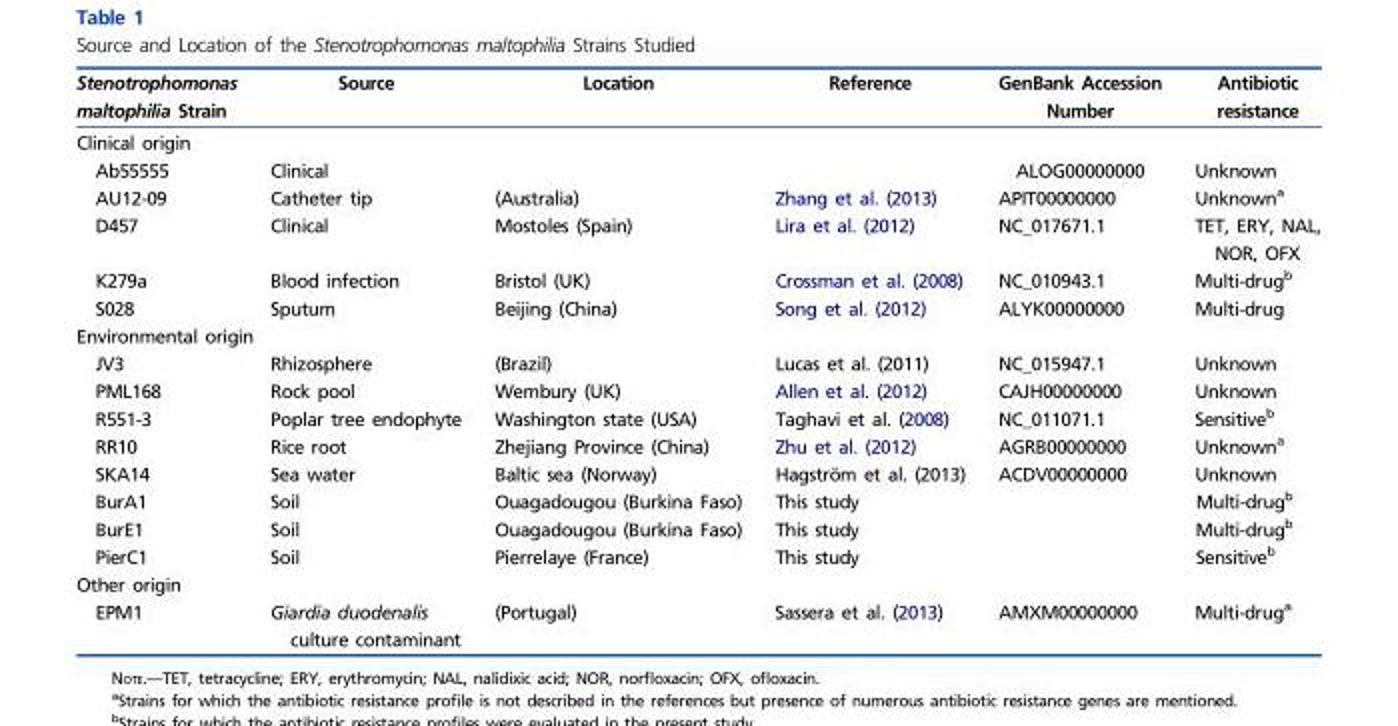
<table><thead><tr><td>Stenotrophomonas maltophilia Strain</td><td>Source</td><td>Location</td><td>Reference</td><td>GenBank Accession Number</td><td>Antibiotic resistance</td></tr></thead><tbody><tr><td colspan="6">Clinical origin</td></tr><tr><td>Ab55555</td><td>Clinical</td><td></td><td></td><td>ALOG00000000</td><td>Unknown</td></tr><tr><td>AU12-09</td><td>Catheter tip</td><td>(Australia)</td><td>Zhang et al. (2013)</td><td>APIT00000000</td><td>Unknown<sup>a</sup></td></tr><tr><td>D457</td><td>Clinical</td><td>Mostoles (Spain)</td><td>Lira et al. (2012)</td><td>NC_017671.1</td><td>TET, ERY, NAL, NOR, OFX</td></tr><tr><td>K279a</td><td>Blood infection</td><td>Bristol (UK)</td><td>Crossman et al. (2008)</td><td>NC_010943.1</td><td>Multi-drug<sup>b</sup></td></tr><tr><td>S028</td><td>Sputum</td><td>Beijing (China)</td><td>Song et al. (2012)</td><td>ALYK00000000</td><td>Multi-drug</td></tr><tr><td colspan="6">Environmental origin</td></tr><tr><td>JV3</td><td>Rhizosphere</td><td>(Brazil)</td><td>Lucas et al. (2011)</td><td>NC_015947.1</td><td>Unknown</td></tr><tr><td>PML168</td><td>Rock pool</td><td>Wembury (UK)</td><td>Allen et al. (2012)</td><td>CAJH00000000</td><td>Unknown</td></tr><tr><td>R551-3</td><td>Poplar tree endophyte</td><td>Washington state (USA)</td><td>Taghavi et al. (2008)</td><td>NC_011071.1</td><td>Sensitive<sup>b</sup></td></tr><tr><td>RR10</td><td>Rice root</td><td>Zhejiang Province (China)</td><td>Zhu et al. (2012)</td><td>AGRB00000000</td><td>Unknown<sup>a</sup></td></tr><tr><td>SKA14</td><td>Sea water</td><td>Baltic sea (Norway)</td><td>Hagstro¨m et al. (2013)</td><td>ACDV00000000</td><td>Unknown</td></tr><tr><td>BurA1</td><td>Soil</td><td>Ouagadougou (Burkina Faso)</td><td>This study</td><td></td><td>Multi-drug<sup>b</sup></td></tr><tr><td>BurE1</td><td>Soil</td><td>Ouagadougou (Burkina Faso)</td><td>This study</td><td></td><td>Multi-drug<sup>b</sup></td></tr><tr><td>PierC1</td><td>Soil</td><td>Pierrelaye (France)</td><td>This study</td><td></td><td>Sensitive<sup>b</sup></td></tr><tr><td colspan="6">Other origin</td></tr><tr><td>EPM1</td><td>Giardia duodenalis culture contaminant</td><td>(Portugal)</td><td>Sassera et al. (2013)</td><td>AMXM00000000</td><td>Multi-drug<sup>a</sup></td></tr></tbody></table>